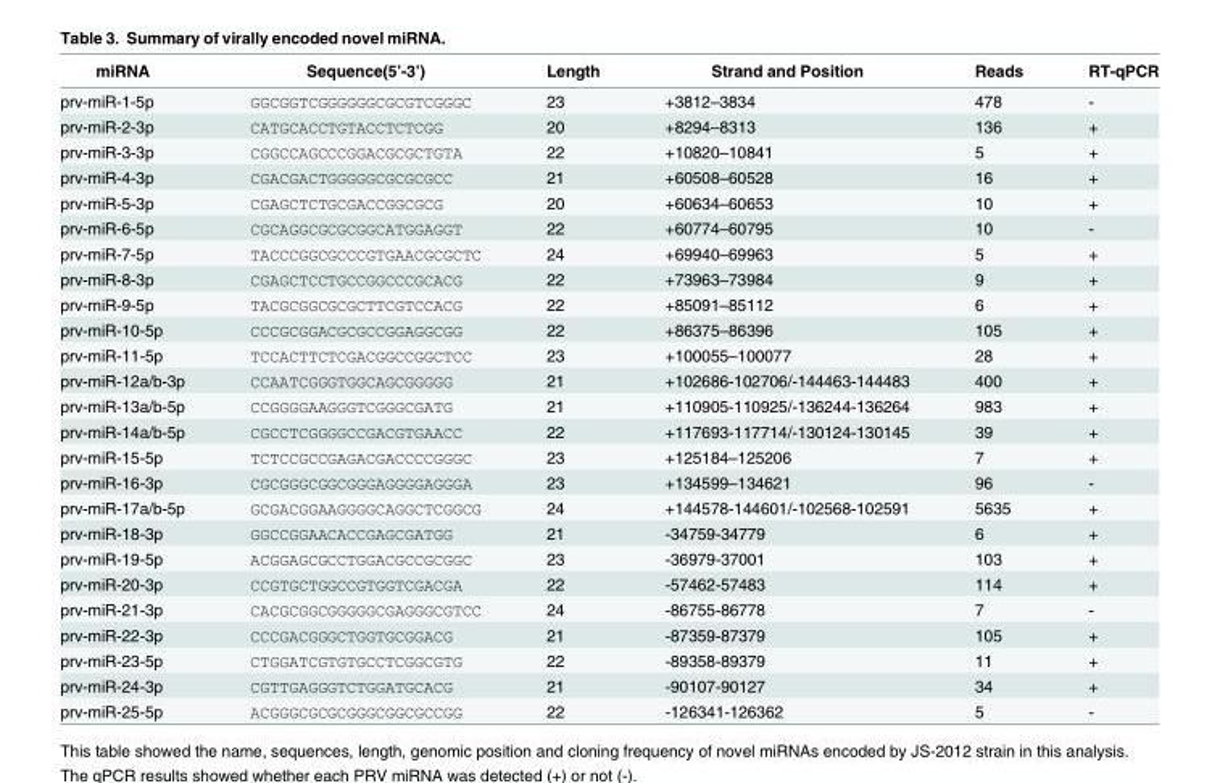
<table><thead><tr><td>miRNA</td><td>Sequence(5’-3’)</td><td>Length</td><td>Strand and Position</td><td>Reads</td><td>RT-qPCR</td></tr></thead><tbody><tr><td>prv-miR-1-5p</td><td>GGCGGTCGGGGGGCGCGTCGGGC</td><td>23</td><td>+3812–3834</td><td>478</td><td>-</td></tr><tr><td>prv-miR-2-3p</td><td>CATGCACCTGTACCTCTCGG</td><td>20</td><td>+8294–8313</td><td>136</td><td>+</td></tr><tr><td>prv-miR-3-3p</td><td>CGGCCAGCCCGGACGCGCTGTA</td><td>22</td><td>+10820–10841</td><td>5</td><td>+</td></tr><tr><td>prv-miR-4-3p</td><td>CGACGACTGGGGGCGCGCGCC</td><td>21</td><td>+60508–60528</td><td>16</td><td>+</td></tr><tr><td>prv-miR-5-3p</td><td>CGAGCTCTGCGACCGGCGCG</td><td>20</td><td>+60634–60653</td><td>10</td><td>+</td></tr><tr><td>prv-miR-6-5p</td><td>CGCAGGCGCGCGGCATGGAGGT</td><td>22</td><td>+60774–60795</td><td>10</td><td>-</td></tr><tr><td>prv-miR-7-5p</td><td>TACCCGGCGCCCGTGAACGCGCTC</td><td>24</td><td>+69940–69963</td><td>5</td><td>+</td></tr><tr><td>prv-miR-8-3p</td><td>CGAGCTCCTGCCGGCCCGCACG</td><td>22</td><td>+73963–73984</td><td>9</td><td>+</td></tr><tr><td>prv-miR-9-5p</td><td>TACGCGGCGCGCTTCGTCCACG</td><td>22</td><td>+85091–85112</td><td>6</td><td>+</td></tr><tr><td>prv-miR-10-5p</td><td>CCCGCGGACGCGCCGGAGGCGG</td><td>22</td><td>+86375–86396</td><td>105</td><td>+</td></tr><tr><td>prv-miR-11-5p</td><td>TCCACTTCTCGACGGCCGGCTCC</td><td>23</td><td>+100055–100077</td><td>28</td><td>+</td></tr><tr><td>prv-miR-12a/b-3p</td><td>CCAATCGGGTGGCAGCGGGGG</td><td>21</td><td>+102686-102706/-144463-144483</td><td>400</td><td>+</td></tr><tr><td>prv-miR-13a/b-5p</td><td>CCGGGGAAGGGTCGGGCGATG</td><td>21</td><td>+110905-110925/-136244-136264</td><td>983</td><td>+</td></tr><tr><td>prv-miR-14a/b-5p</td><td>CGCCTCGGGGCCGACGTGAACC</td><td>22</td><td>+117693-117714/-130124-130145</td><td>39</td><td>+</td></tr><tr><td>prv-miR-15-5p</td><td>TCTCCGCCGAGACGACCCCGGGC</td><td>23</td><td>+125184–125206</td><td>7</td><td>+</td></tr><tr><td>prv-miR-16-3p</td><td>CGCGGGCGGCGGGAGGGGAGGGA</td><td>23</td><td>+134599–134621</td><td>96</td><td>-</td></tr><tr><td>prv-miR-17a/b-5p</td><td>GCGACGGAAGGGGCAGGCTCGGCG</td><td>24</td><td>+144578-144601/-102568-102591</td><td>5635</td><td>+</td></tr><tr><td>prv-miR-18-3p</td><td>GGCCGGAACACCGAGCGATGG</td><td>21</td><td>-34759-34779</td><td>6</td><td>+</td></tr><tr><td>prv-miR-19-5p</td><td>ACGGAGCGCCTGGACGCCGCGGC</td><td>23</td><td>-36979-37001</td><td>103</td><td>+</td></tr><tr><td>prv-miR-20-3p</td><td>CCGTGCTGGCCGTGGTCGACGA</td><td>22</td><td>-57462-57483</td><td>114</td><td>+</td></tr><tr><td>prv-miR-21-3p</td><td>CACGCGGCGGGGGCGAGGGCGTCC</td><td>24</td><td>-86755-86778</td><td>7</td><td>-</td></tr><tr><td>prv-miR-22-3p</td><td>CCCGACGGGCTGGTGCGGACG</td><td>21</td><td>-87359-87379</td><td>105</td><td>+</td></tr><tr><td>prv-miR-23-5p</td><td>CTGGATCGTGTGCCTCGGCGTG</td><td>22</td><td>-89358-89379</td><td>11</td><td>+</td></tr><tr><td>prv-miR-24-3p</td><td>CGTTGAGGGTCTGGATGCACG</td><td>21</td><td>-90107-90127</td><td>34</td><td>+</td></tr><tr><td>prv-miR-25-5p</td><td>ACGGGCGCGCGGGCGGCGCCGG</td><td>22</td><td>-126341-126362</td><td>5</td><td>-</td></tr></tbody></table>